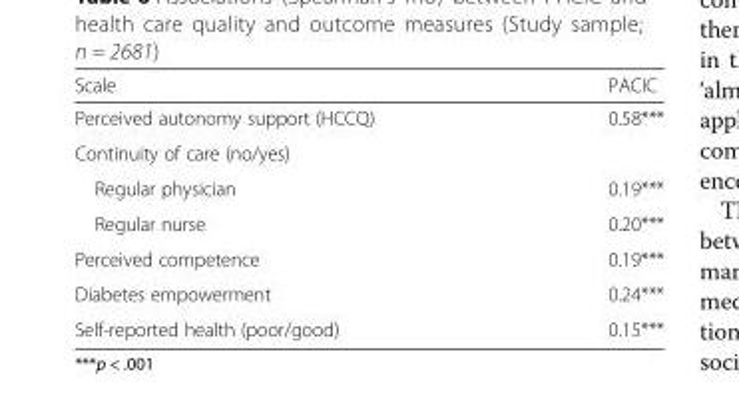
<table><thead><tr><td>Scale</td><td>PACIC</td></tr></thead><tbody><tr><td>Perceived autonomy support (HCCQ)</td><td>0.58***</td></tr><tr><td colspan="2">Continuity of care (no/yes)</td></tr><tr><td>Regular physician</td><td>0.19***</td></tr><tr><td>Regular nurse</td><td>0.20***</td></tr><tr><td>Perceived competence</td><td>0.19***</td></tr><tr><td>Diabetes empowerment</td><td>0.24***</td></tr><tr><td>Self-reported health (poor/good)</td><td>0.15***</td></tr></tbody></table>